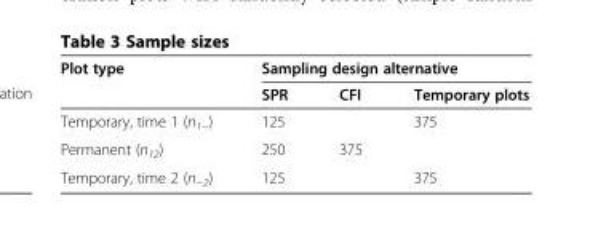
<table><thead><tr><td rowspan="2">Plot type</td><td colspan="3">Sampling design alternative</td></tr><tr><td>SPR</td><td>CFI</td><td>Temporary plots</td></tr></thead><tbody><tr><td>Temporary, time 1 (n<sub>1−</sub>)</td><td>125</td><td></td><td>375</td></tr><tr><td>Permanent (n<sub>12</sub>)</td><td>250</td><td>375</td><td></td></tr><tr><td>Temporary, time 2 (n<sub>−2</sub>)</td><td>125</td><td></td><td>375</td></tr></tbody></table>